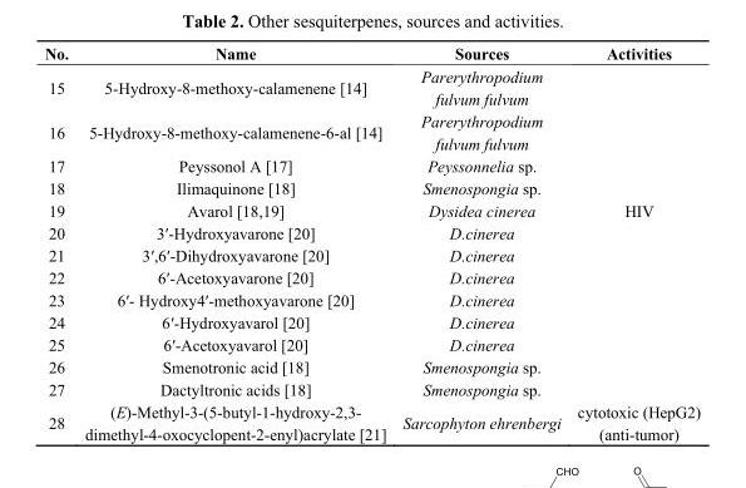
<table><thead><tr><td>No.</td><td>Name</td><td>Sources</td><td>Activities</td></tr></thead><tbody><tr><td>15</td><td>5-Hydroxy-8-methoxy-calamenene [14]</td><td>Parerythropodium fulvum fulvum</td><td></td></tr><tr><td>16</td><td>5-Hydroxy-8-methoxy-calamenene-6-al [14]</td><td>Parerythropodium fulvum fulvum</td><td></td></tr><tr><td>17</td><td>Peyssonol A [17]</td><td>Peyssonnelia sp.</td><td></td></tr><tr><td>18</td><td>Ilimaquinone [18]</td><td>Smenospongia sp.</td><td></td></tr><tr><td>19</td><td>Avarol [18,19]</td><td>Dysidea cinerea</td><td>HIV</td></tr><tr><td>20</td><td>3′-Hydroxyavarone [20]</td><td>D.cinerea</td><td></td></tr><tr><td>21</td><td>3′,6′-Dihydroxyavarone [20]</td><td>D.cinerea</td><td></td></tr><tr><td>22</td><td>6′-Acetoxyavarone [20]</td><td>D.cinerea</td><td></td></tr><tr><td>23</td><td>6′- Hydroxy4′-methoxyavarone [20]</td><td>D.cinerea</td><td></td></tr><tr><td>24</td><td>6′-Hydroxyavarol [20]</td><td>D.cinerea</td><td></td></tr><tr><td>25</td><td>6′-Acetoxyavarol [20]</td><td>D.cinerea</td><td></td></tr><tr><td>26</td><td>Smenotronic acid [18]</td><td>Smenospongia sp.</td><td></td></tr><tr><td>27</td><td>Dactyltronic acids [18]</td><td>Smenospongia sp.</td><td></td></tr><tr><td>28</td><td>(E)-Methyl-3-(5-butyl-1-hydroxy-2,3- dimethyl-4-oxocyclopent-2-enyl)acrylate [21]</td><td>Sarcophyton ehrenbergi</td><td>cytotoxic (HepG2) (anti-tumor)</td></tr></tbody></table>